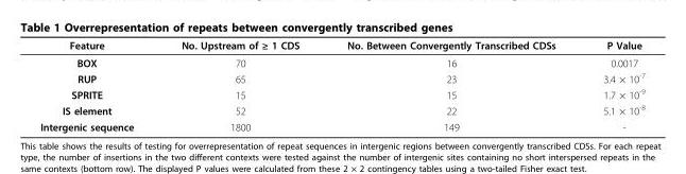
<table><thead><tr><td>Feature</td><td>No. Upstream of ≥ 1 CDS</td><td>No. Between Convergently Transcribed CDSs</td><td>P Value</td></tr></thead><tbody><tr><td>BOX</td><td>70</td><td>16</td><td>0.0017</td></tr><tr><td>RUP</td><td>65</td><td>23</td><td>3.4 × 10<sup>-7</sup></td></tr><tr><td>SPRITE</td><td>15</td><td>15</td><td>1.7 × 10<sup>-9</sup></td></tr><tr><td>IS element</td><td>52</td><td>22</td><td>5.1 × 10<sup>-8</sup></td></tr><tr><td>Intergenic sequence</td><td>1800</td><td>149</td><td>-</td></tr></tbody></table>